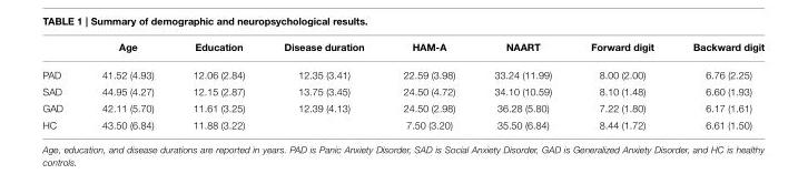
<table><thead><tr><td></td><td>Age</td><td>Education</td><td>Disease duration</td><td>HAM-A</td><td>NAART</td><td>Forward digit</td><td>Backward digit</td></tr></thead><tbody><tr><td>PAD</td><td>41.52 (4.93)</td><td>12.06 (2.84)</td><td>12.35 (3.41)</td><td>22.59 (3.98)</td><td>33.24 (11.99)</td><td>8.00 (2.00)</td><td>6.76 (2.25)</td></tr><tr><td>SAD</td><td>44.95 (4.27)</td><td>12.15 (2.87)</td><td>13.75 (3.45)</td><td>24.50 (4.72)</td><td>34.10 (10.59)</td><td>8.10 (1.48)</td><td>6.60 (1.93)</td></tr><tr><td>GAD</td><td>42.11 (5.70)</td><td>11.61 (3.25)</td><td>12.39 (4.13)</td><td>24.50 (2.98)</td><td>36.28 (5.80)</td><td>7.22 (1.80)</td><td>6.17 (1.61)</td></tr><tr><td>HC</td><td>43.50 (6.84)</td><td>11.88 (3.22)</td><td></td><td>7.50 (3.20)</td><td>35.50 (6.84)</td><td>8.44 (1.72)</td><td>6.61 (1.50)</td></tr></tbody></table>